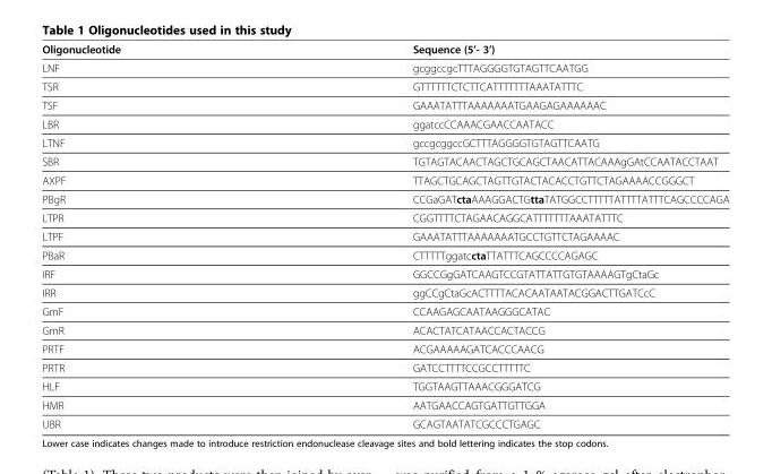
<table><thead><tr><td>Oligonucleotide</td><td>Sequence (5’- 3’)</td></tr></thead><tbody><tr><td>LNF</td><td>gcggccgcTTTAGGGGTGTAGTTCAATGG</td></tr><tr><td>TSR</td><td>GTTTTTTCTCTTCATTTTTTTAAATATTTC</td></tr><tr><td>TSF</td><td>GAAATATTTAAAAAAATGAAGAGAAAAAAC</td></tr><tr><td>LBR</td><td>ggatccCCAAACGAACCAATACC</td></tr><tr><td>LTNF</td><td>gccgcggccGCTTTAGGGGTGTAGTTCAATG</td></tr><tr><td>SBR</td><td>TGTAGTACAACTAGCTGCAGCTAACATTACAAAgGAtCCAATACCTAAT</td></tr><tr><td>AXPF</td><td>TTAGCTGCAGCTAGTTGTACTACACCTGTTCTAGAAAACCGGGCT</td></tr><tr><td>PBgR</td><td>CCGaGATctaAAAGGACTGttaTATGGCCTTTTTATTTTATTTCAGCCCCAGA</td></tr><tr><td>LTPR</td><td>CGGTTTTCTAGAACAGGCATTTTTTTAAATATTTC</td></tr><tr><td>LTPF</td><td>GAAATATTTAAAAAAATGCCTGTTCTAGAAAAC</td></tr><tr><td>PBaR</td><td>CTTTTTggatcctaTTATTTCAGCCCCAGAGC</td></tr><tr><td>IRF</td><td>GGCCGgGATCAAGTCCGTATTATTGTGTAAAAGTgCtaGc</td></tr><tr><td>IRR</td><td>ggCCgCtaGcACTTTTACACAATAATACGGACTTGATCcC</td></tr><tr><td>GmF</td><td>CCAAGAGCAATAAGGGCATAC</td></tr><tr><td>GmR</td><td>ACACTATCATAACCACTACCG</td></tr><tr><td>PRTF</td><td>ACGAAAAAGATCACCCAACG</td></tr><tr><td>PRTR</td><td>GATCCTTTTCCGCCTTTTTC</td></tr><tr><td>HLF</td><td>TGGTAAGTTAAACGGGATCG</td></tr><tr><td>HMR</td><td>AATGAACCAGTGATTGTTGGA</td></tr><tr><td>UBR</td><td>GCAGTAATATCGCCCTGAGC</td></tr></tbody></table>